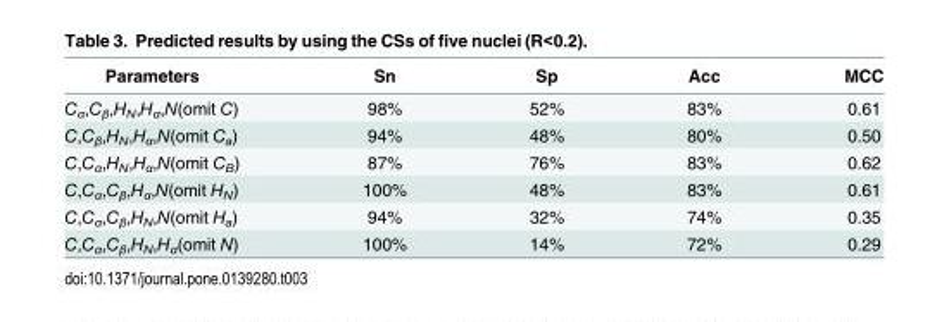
<table><thead><tr><td>Parameters</td><td>Sn</td><td>Sp</td><td>Acc</td><td>MCC</td></tr></thead><tbody><tr><td>C<sub>α</sub>,C<sub>β</sub>,H<sub>N</sub>,H<sub>α</sub>,N(omit C)</td><td>98%</td><td>52%</td><td>83%</td><td>0.61</td></tr><tr><td>C,C<sub>β</sub>,H<sub>N</sub>,H<sub>α</sub>,N(omit C<sub>a</sub>)</td><td>94%</td><td>48%</td><td>80%</td><td>0.50</td></tr><tr><td>C,C<sub>α</sub>,H<sub>N</sub>,H<sub>α</sub>,N(omit C<sub>B</sub>)</td><td>87%</td><td>76%</td><td>83%</td><td>0.62</td></tr><tr><td>C,C<sub>α</sub>,C<sub>β</sub>,H<sub>α</sub>,N(omit H<sub>N</sub>)</td><td>100%</td><td>48%</td><td>83%</td><td>0.61</td></tr><tr><td>C,C<sub>α</sub>,C<sub>β</sub>,H<sub>N</sub>,N(omit H<sub>a</sub>)</td><td>94%</td><td>32%</td><td>74%</td><td>0.35</td></tr><tr><td>C,C<sub>α</sub>,C<sub>β</sub>,H<sub>N</sub>,H<sub>α</sub>(omit N)</td><td>100%</td><td>14%</td><td>72%</td><td>0.29</td></tr></tbody></table>